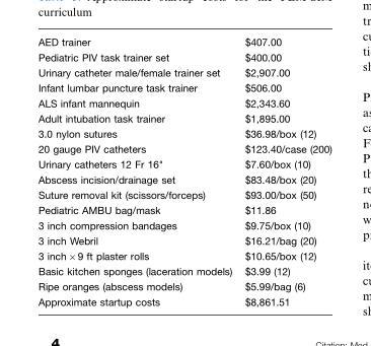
<table><tbody><tr><td>AED trainer</td><td>$407.00</td></tr><tr><td>Pediatric PIV task trainer set</td><td>$400.00</td></tr><tr><td>Urinary catheter male/female trainer set</td><td>$2,907.00</td></tr><tr><td>Infant lumbar puncture task trainer</td><td>$506.00</td></tr><tr><td>ALS infant mannequin</td><td>$2,343.60</td></tr><tr><td>Adult intubation task trainer</td><td>$1,895.00</td></tr><tr><td>3.0 nylon sutures</td><td>$36.98/box (12)</td></tr><tr><td>20 gauge PIV catheters</td><td>$123.40/case (200)</td></tr><tr><td>Urinary catheters 12 Fr 16&quot;</td><td>$7.60/box (10)</td></tr><tr><td>Abscess incision/drainage set</td><td>$83.48/box (20)</td></tr><tr><td>Suture removal kit (scissors/forceps)</td><td>$93.00/box (50)</td></tr><tr><td>Pediatric AMBU bag/mask</td><td>$11.86</td></tr><tr><td>3 inch compression bandages</td><td>$9.75/box (10)</td></tr><tr><td>3 inch Webril</td><td>$16.21/bag (20)</td></tr><tr><td>3 inch×9 ft plaster rolls</td><td>$10.65/box (12)</td></tr><tr><td>Basic kitchen sponges (laceration models)</td><td>$3.99 (12)</td></tr><tr><td>Ripe oranges (abscess models)</td><td>$5.99/bag (6)</td></tr><tr><td>Approximate startup costs</td><td>$8,861.51</td></tr></tbody></table>